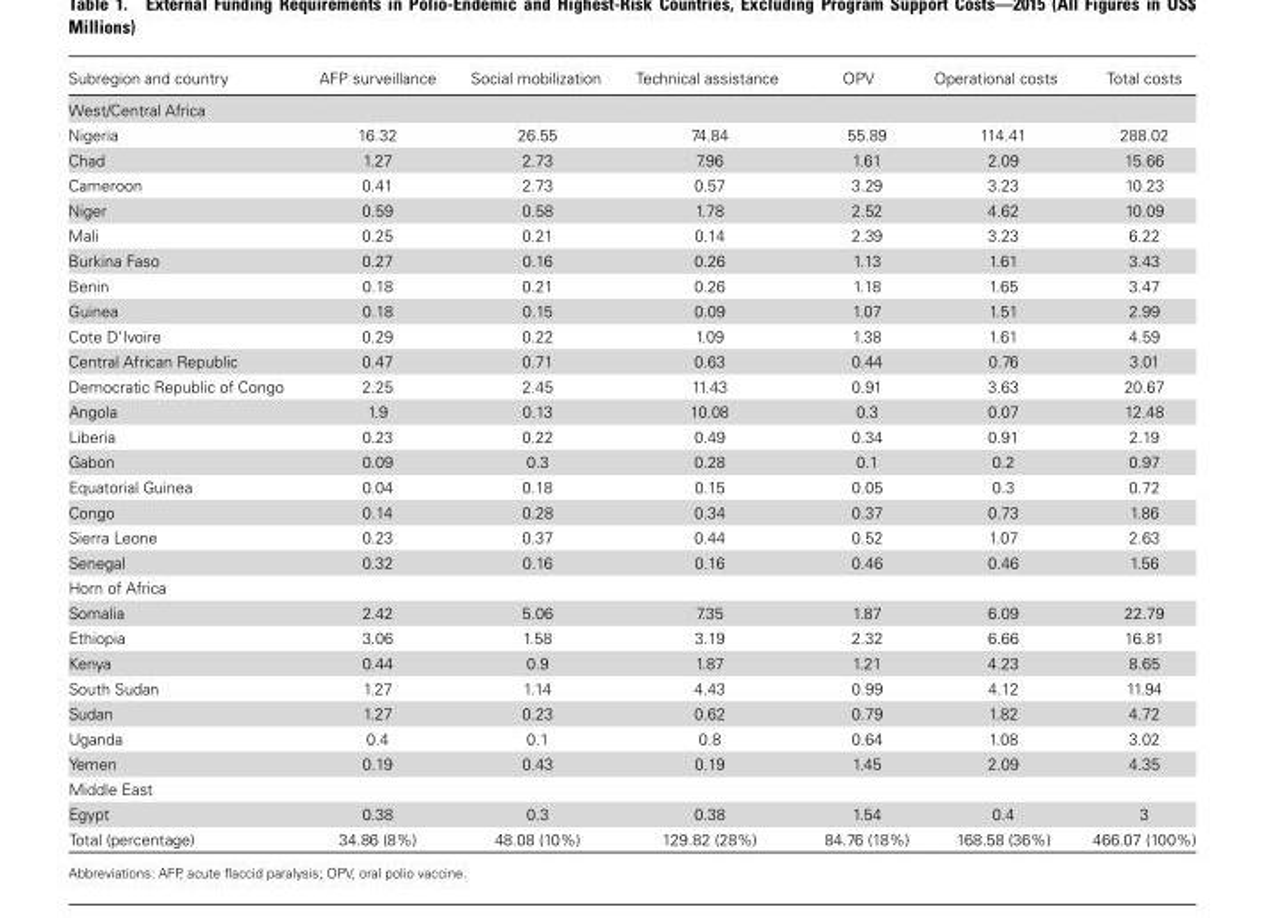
<table><thead><tr><td>Subregion and country</td><td>AFP surveillance</td><td>Social mobilization</td><td>Technical assistance</td><td>OPV</td><td>Operational costs</td><td>Total costs</td></tr></thead><tbody><tr><td colspan="7">West/Central Africa</td></tr><tr><td>Nigeria</td><td>16.32</td><td>26.55</td><td>74.84</td><td>55.89</td><td>114.41</td><td>288.02</td></tr><tr><td>Chad</td><td>1.27</td><td>2.73</td><td>7.96</td><td>1.61</td><td>2.09</td><td>15.66</td></tr><tr><td>Cameroon</td><td>0.41</td><td>2.73</td><td>0.57</td><td>3.29</td><td>3.23</td><td>10.23</td></tr><tr><td>Niger</td><td>0.59</td><td>0.58</td><td>1.78</td><td>2.52</td><td>4.62</td><td>10.09</td></tr><tr><td>Mali</td><td>0.25</td><td>0.21</td><td>0.14</td><td>2.39</td><td>3.23</td><td>6.22</td></tr><tr><td>Burkina Faso</td><td>0.27</td><td>0.16</td><td>0.26</td><td>1.13</td><td>1.61</td><td>3.43</td></tr><tr><td>Benin</td><td>0.18</td><td>0.21</td><td>0.26</td><td>1.18</td><td>1.65</td><td>3.47</td></tr><tr><td>Guinea</td><td>0.18</td><td>0.15</td><td>0.09</td><td>1.07</td><td>1.51</td><td>2.99</td></tr><tr><td>Cote D&#x27;Ivoire</td><td>0.29</td><td>0.22</td><td>1.09</td><td>1.38</td><td>1.61</td><td>4.59</td></tr><tr><td>Central African Republic</td><td>0.47</td><td>0.71</td><td>0.63</td><td>0.44</td><td>0.76</td><td>3.01</td></tr><tr><td>Democratic Republic of Congo</td><td>2.25</td><td>2.45</td><td>11.43</td><td>0.91</td><td>3.63</td><td>20.67</td></tr><tr><td>Angola</td><td>1.9</td><td>0.13</td><td>10.08</td><td>0.3</td><td>0.07</td><td>12.48</td></tr><tr><td>Liberia</td><td>0.23</td><td>0.22</td><td>0.49</td><td>0.34</td><td>0.91</td><td>2.19</td></tr><tr><td>Gabon</td><td>0.09</td><td>0.3</td><td>0.28</td><td>0.1</td><td>0.2</td><td>0.97</td></tr><tr><td>Equatorial Guinea</td><td>0.04</td><td>0.18</td><td>0.15</td><td>0.05</td><td>0.3</td><td>0.72</td></tr><tr><td>Congo</td><td>0.14</td><td>0.28</td><td>0.34</td><td>0.37</td><td>0.73</td><td>1.86</td></tr><tr><td>Sierra Leone</td><td>0.23</td><td>0.37</td><td>0.44</td><td>0.52</td><td>1.07</td><td>2.63</td></tr><tr><td>Senegal</td><td>0.32</td><td>0.16</td><td>0.16</td><td>0.46</td><td>0.46</td><td>1.56</td></tr><tr><td colspan="7">Horn of Africa</td></tr><tr><td>Somalia</td><td>2.42</td><td>5.06</td><td>7.35</td><td>1.87</td><td>6.09</td><td>22.79</td></tr><tr><td>Ethiopia</td><td>3.06</td><td>1.58</td><td>3.19</td><td>2.32</td><td>6.66</td><td>16.81</td></tr><tr><td>Kenya</td><td>0.44</td><td>0.9</td><td>1.87</td><td>1.21</td><td>4.23</td><td>8.65</td></tr><tr><td>South Sudan</td><td>1.27</td><td>1.14</td><td>4.43</td><td>0.99</td><td>4.12</td><td>11.94</td></tr><tr><td>Sudan</td><td>1.27</td><td>0.23</td><td>0.62</td><td>0.79</td><td>1.82</td><td>4.72</td></tr><tr><td>Uganda</td><td>0.4</td><td>0.1</td><td>0.8</td><td>0.64</td><td>1.08</td><td>3.02</td></tr><tr><td>Yemen</td><td>0.19</td><td>0.43</td><td>0.19</td><td>1.45</td><td>2.09</td><td>4.35</td></tr><tr><td colspan="7">Middle East</td></tr><tr><td>Egypt</td><td>0.38</td><td>0.3</td><td>0.38</td><td>1.54</td><td>0.4</td><td>3</td></tr><tr><td>Total (percentage)</td><td>34.86 (8%)</td><td>48.08 (10%)</td><td>129.82 (28%)</td><td>84.76 (18%)</td><td>168.58 (36%)</td><td>466.07 (100%)</td></tr></tbody></table>